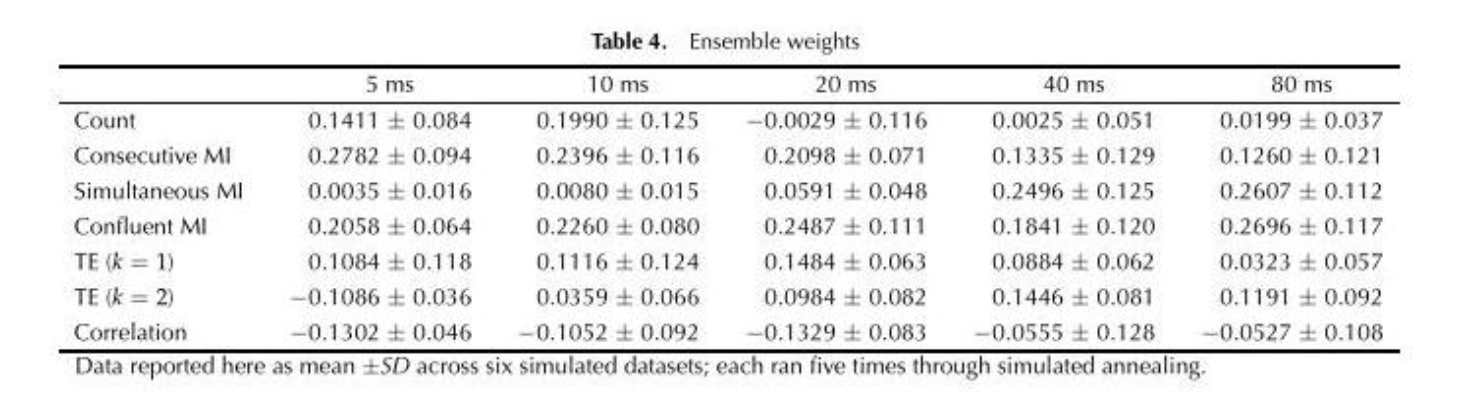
<table><thead><tr><td></td><td>5 ms</td><td>10 ms</td><td>20 ms</td><td>40 ms</td><td>80 ms</td></tr></thead><tbody><tr><td>Count</td><td>0.1411 ± 0.084</td><td>0.1990 ± 0.125</td><td>−0.0029 ± 0.116</td><td>0.0025 ± 0.051</td><td>0.0199 ± 0.037</td></tr><tr><td>Consecutive MI</td><td>0.2782 ± 0.094</td><td>0.2396 ± 0.116</td><td>0.2098 ± 0.071</td><td>0.1335 ± 0.129</td><td>0.1260 ± 0.121</td></tr><tr><td>Simultaneous MI</td><td>0.0035 ± 0.016</td><td>0.0080 ± 0.015</td><td>0.0591 ± 0.048</td><td>0.2496 ± 0.125</td><td>0.2607 ± 0.112</td></tr><tr><td>Confluent MI</td><td>0.2058 ± 0.064</td><td>0.2260 ± 0.080</td><td>0.2487 ± 0.111</td><td>0.1841 ± 0.120</td><td>0.2696 ± 0.117</td></tr><tr><td>TE (k = 1)</td><td>0.1084 ± 0.118</td><td>0.1116 ± 0.124</td><td>0.1484 ± 0.063</td><td>0.0884 ± 0.062</td><td>0.0323 ± 0.057</td></tr><tr><td>TE (k = 2)</td><td>−0.1086 ± 0.036</td><td>0.0359 ± 0.066</td><td>0.0984 ± 0.082</td><td>0.1446 ± 0.081</td><td>0.1191 ± 0.092</td></tr><tr><td>Correlation</td><td>−0.1302 ± 0.046</td><td>−0.1052 ± 0.092</td><td>−0.1329 ± 0.083</td><td>−0.0555 ± 0.128</td><td>−0.0527 ± 0.108</td></tr></tbody></table>